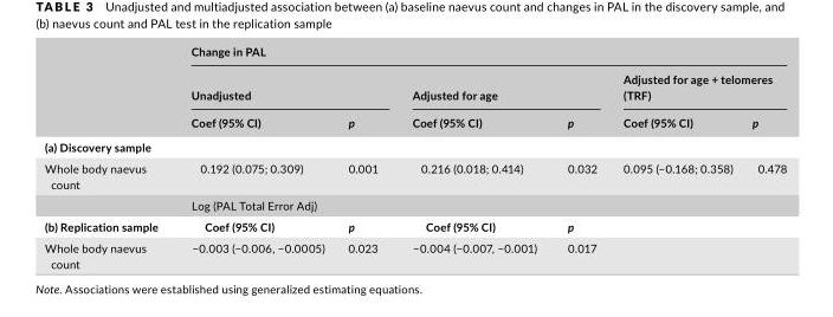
<table><thead><tr><td rowspan="3"></td><td colspan="6">Change in PAL</td></tr><tr><td colspan="2">Unadjusted</td><td colspan="2">Adjusted for age</td><td colspan="2">Adjusted for age + telomeres (TRF)</td></tr><tr><td>Coef (95% CI)</td><td>p</td><td>Coef (95% CI)</td><td>p</td><td>Coef (95% CI)</td><td>p</td></tr></thead><tbody><tr><td colspan="7">(a) Discovery sample</td></tr><tr><td>Whole body naevus count</td><td>0.192 (0.075; 0.309)</td><td>0.001</td><td>0.216 (0.018; 0.414)</td><td>0.032</td><td>0.095 (−0.168; 0.358)</td><td>0.478</td></tr><tr><td colspan="7">Log (PAL Total Error Adj)</td></tr><tr><td>(b) Replication sample</td><td>Coef (95% CI)</td><td>p</td><td>Coef (95% CI)</td><td>p</td><td></td><td></td></tr><tr><td>Whole body naevus count</td><td>−0.003 (−0.006, −0.0005)</td><td>0.023</td><td>−0.004 (−0.007, −0.001)</td><td>0.017</td><td></td><td></td></tr></tbody></table>